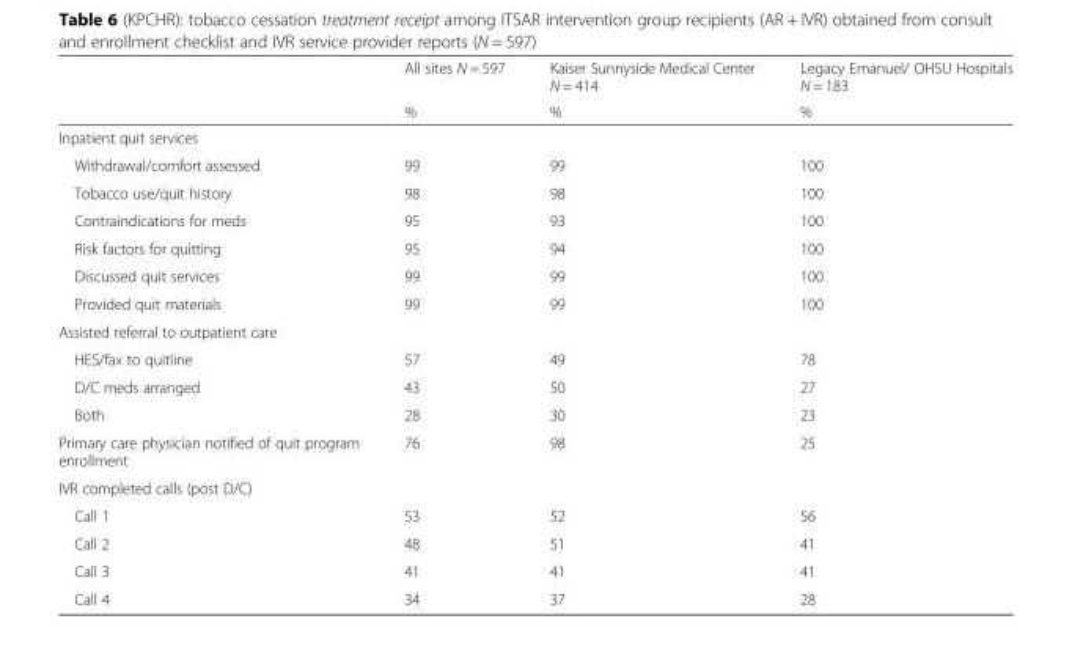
<table><thead><tr><td rowspan="2"></td><td rowspan="2">All sites N = 597 %</td><td rowspan="2">Kaiser Sunnyside Medical Center N = 414 %</td><td rowspan="2">Legacy Emanuel/ OHSU Hospitals N = 183 %</td></tr><tr></tr></thead><tbody><tr><td colspan="4">Inpatient quit services</td></tr><tr><td>Withdrawal/comfort assessed</td><td>99</td><td>99</td><td>100</td></tr><tr><td>Tobacco use/quit history</td><td>98</td><td>98</td><td>100</td></tr><tr><td>Contraindications for meds</td><td>95</td><td>93</td><td>100</td></tr><tr><td>Risk factors for quitting</td><td>95</td><td>94</td><td>100</td></tr><tr><td>Discussed quit services</td><td>99</td><td>99</td><td>100</td></tr><tr><td>Provided quit materials</td><td>99</td><td>99</td><td>100</td></tr><tr><td colspan="4">Assisted referral to outpatient care</td></tr><tr><td>HES/fax to quitline</td><td>57</td><td>49</td><td>78</td></tr><tr><td>D/C meds arranged</td><td>43</td><td>50</td><td>27</td></tr><tr><td>Both</td><td>28</td><td>30</td><td>23</td></tr><tr><td>Primary care physician notified of quit program enrollment</td><td>76</td><td>98</td><td>25</td></tr><tr><td colspan="4">IVR completed calls (post D/C)</td></tr><tr><td>Call 1</td><td>53</td><td>52</td><td>56</td></tr><tr><td>Call 2</td><td>48</td><td>51</td><td>41</td></tr><tr><td>Call 3</td><td>41</td><td>41</td><td>41</td></tr><tr><td>Call 4</td><td>34</td><td>37</td><td>28</td></tr></tbody></table>